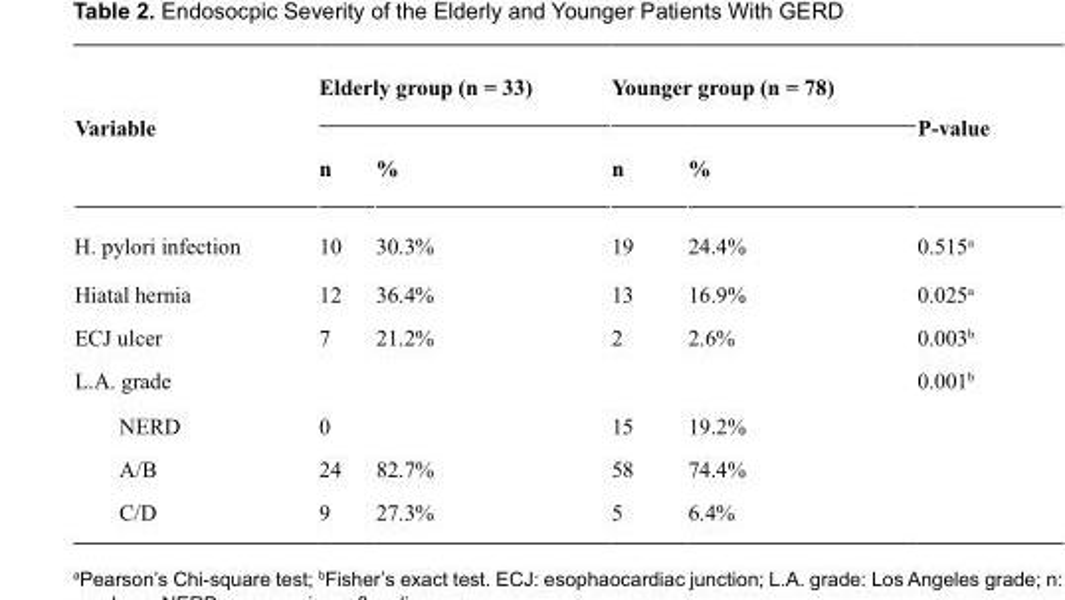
<table><thead><tr><td rowspan="2">Variable</td><td colspan="2">Elderly group (n = 33)</td><td colspan="2">Younger group (n = 78)</td><td rowspan="2">P-value</td></tr><tr><td>n</td><td>%</td><td>n</td><td>%</td></tr></thead><tbody><tr><td>H. pylori infection</td><td>10</td><td>30.3%</td><td>19</td><td>24.4%</td><td>0.515<sup>a</sup></td></tr><tr><td>Hiatal hernia</td><td>12</td><td>36.4%</td><td>13</td><td>16.9%</td><td>0.025<sup>a</sup></td></tr><tr><td>ECJ ulcer</td><td>7</td><td>21.2%</td><td>2</td><td>2.6%</td><td>0.003<sup>b</sup></td></tr><tr><td>L.A. grade</td><td></td><td></td><td></td><td></td><td>0.001<sup>b</sup></td></tr><tr><td>NERD</td><td>0</td><td></td><td>15</td><td>19.2%</td><td></td></tr><tr><td>A/B</td><td>24</td><td>82.7%</td><td>58</td><td>74.4%</td><td></td></tr><tr><td>C/D</td><td>9</td><td>27.3%</td><td>5</td><td>6.4%</td><td></td></tr></tbody></table>